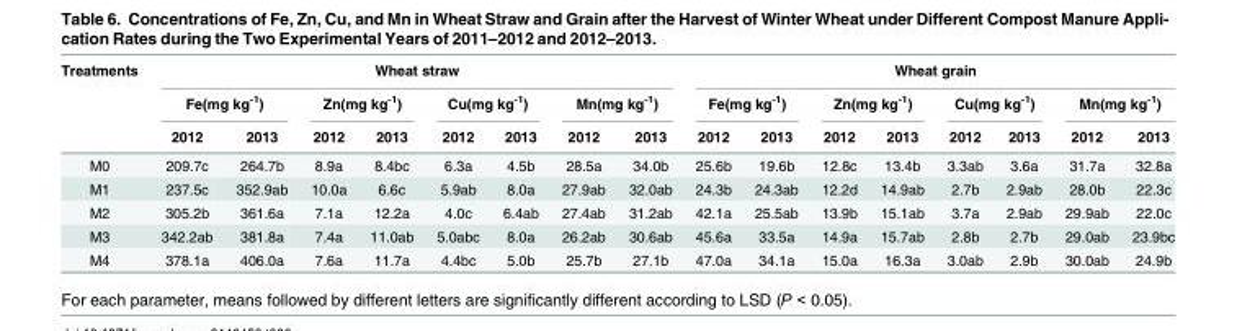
<table><thead><tr><td rowspan="3">Treatments</td><td colspan="8">Wheat straw</td><td colspan="8">Wheat grain</td></tr><tr><td colspan="2">Fe(mg kg<sup>-1</sup>)</td><td colspan="2">Zn(mg kg<sup>-1</sup>)</td><td colspan="2">Cu(mg kg<sup>-1</sup>)</td><td colspan="2">Mn(mg kg<sup>-1</sup>)</td><td colspan="2">Fe(mg kg<sup>-1</sup>)</td><td colspan="2">Zn(mg kg<sup>-1</sup>)</td><td colspan="2">Cu(mg kg<sup>-1</sup>)</td><td colspan="2">Mn(mg kg<sup>-1</sup>)</td></tr><tr><td>2012</td><td>2013</td><td>2012</td><td>2013</td><td>2012</td><td>2013</td><td>2012</td><td>2013</td><td>2012</td><td>2013</td><td>2012</td><td>2013</td><td>2012</td><td>2013</td><td>2012</td><td>2013</td></tr></thead><tbody><tr><td>M0</td><td>209.7c</td><td>264.7b</td><td>8.9a</td><td>8.4bc</td><td>6.3a</td><td>4.5b</td><td>28.5a</td><td>34.0b</td><td>25.6b</td><td>19.6b</td><td>12.8c</td><td>13.4b</td><td>3.3ab</td><td>3.6a</td><td>31.7a</td><td>32.8a</td></tr><tr><td>M1</td><td>237.5c</td><td>352.9ab</td><td>10.0a</td><td>6.6c</td><td>5.9ab</td><td>8.0a</td><td>27.9ab</td><td>32.0ab</td><td>24.3b</td><td>24.3ab</td><td>12.2d</td><td>14.9ab</td><td>2.7b</td><td>2.9ab</td><td>28.0b</td><td>22.3c</td></tr><tr><td>M2</td><td>305.2b</td><td>361.6a</td><td>7.1a</td><td>12.2a</td><td>4.0c</td><td>6.4ab</td><td>27.4ab</td><td>31.2ab</td><td>42.1a</td><td>25.5ab</td><td>13.9b</td><td>15.1ab</td><td>3.7a</td><td>2.9ab</td><td>29.9ab</td><td>22.0c</td></tr><tr><td>M3</td><td>342.2ab</td><td>381.8a</td><td>7.4a</td><td>11.0ab</td><td>5.0abc</td><td>8.0a</td><td>26.2ab</td><td>30.6ab</td><td>45.6a</td><td>33.5a</td><td>14.9a</td><td>15.7ab</td><td>2.8b</td><td>2.7b</td><td>29.0ab</td><td>23.9bc</td></tr><tr><td>M4</td><td>378.1a</td><td>406.0a</td><td>7.6a</td><td>11.7a</td><td>4.4bc</td><td>5.0b</td><td>25.7b</td><td>27.1b</td><td>47.0a</td><td>34.1a</td><td>15.0a</td><td>16.3a</td><td>3.0ab</td><td>2.9b</td><td>30.0ab</td><td>24.9b</td></tr></tbody></table>